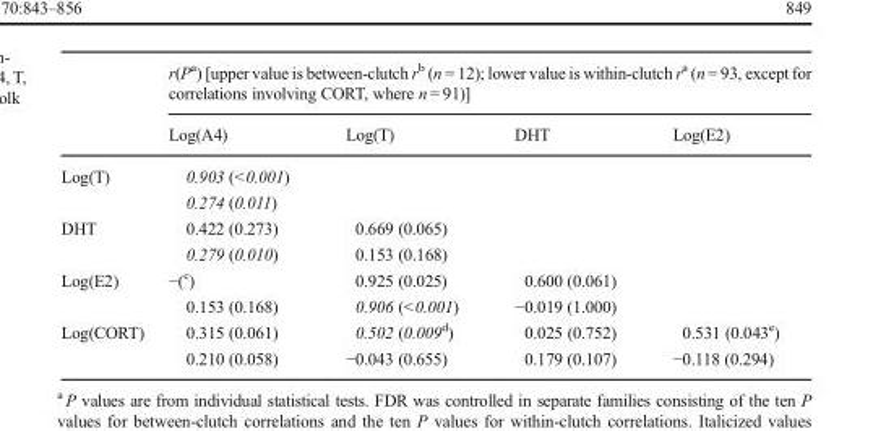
<table><thead><tr><td rowspan="2"></td><td colspan="4">r(P<sup>a</sup>) [upper value is between-clutch r<sup>b</sup> (n = 12); lower value is within-clutch r<sup>a</sup> (n = 93, except for correlations involving CORT, where n = 91)]</td></tr><tr><td>Log(A4)</td><td>Log(T)</td><td>DHT</td><td>Log(E2)</td></tr></thead><tbody><tr><td rowspan="2">Log(T)</td><td>0.903 (&lt;0.001)</td><td></td><td></td><td></td></tr><tr><td>0.274 (0.011)</td><td></td><td></td><td></td></tr><tr><td rowspan="2">DHT</td><td>0.422 (0.273)</td><td>0.669 (0.065)</td><td></td><td></td></tr><tr><td>0.279 (0.010)</td><td>0.153 (0.168)</td><td></td><td></td></tr><tr><td rowspan="2">Log(E2)</td><td>−(<sup>c</sup>)</td><td>0.925 (0.025)</td><td>0.600 (0.061)</td><td></td></tr><tr><td>0.153 (0.168)</td><td>0.906 (&lt;0.001)</td><td>−0.019 (1.000)</td><td></td></tr><tr><td rowspan="2">Log(CORT)</td><td>0.315 (0.061)</td><td>0.502 (0.009<sup>d</sup>)</td><td>0.025 (0.752)</td><td>0.531 (0.043<sup>e</sup>)</td></tr><tr><td>0.210 (0.058)</td><td>−0.043 (0.655)</td><td>0.179 (0.107)</td><td>−0.118 (0.294)</td></tr></tbody></table>